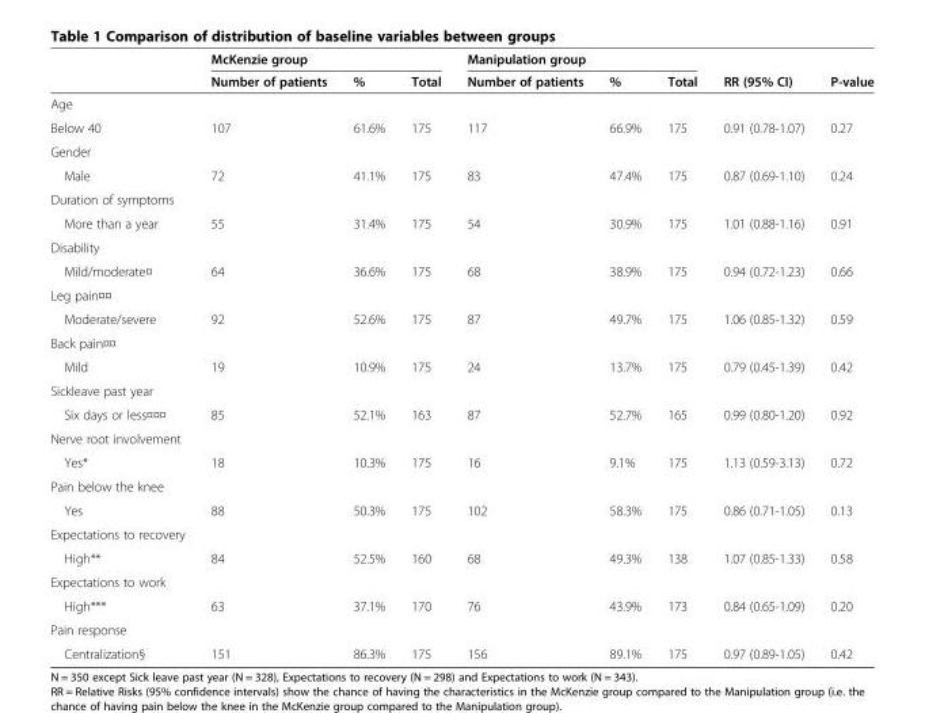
<table><thead><tr><td rowspan="2"></td><td colspan="3">McKenzie group</td><td colspan="3">Manipulation group</td><td rowspan="2">RR (95% CI)</td><td rowspan="2">P-value</td></tr><tr><td>Number of patients</td><td>%</td><td>Total</td><td>Number of patients</td><td>%</td><td>Total</td></tr></thead><tbody><tr><td colspan="9">Age</td></tr><tr><td>Below 40</td><td>107</td><td>61.6%</td><td>175</td><td>117</td><td>66.9%</td><td>175</td><td>0.91 (0.78-1.07)</td><td>0.27</td></tr><tr><td colspan="9">Gender</td></tr><tr><td>Male</td><td>72</td><td>41.1%</td><td>175</td><td>83</td><td>47.4%</td><td>175</td><td>0.87 (0.69-1.10)</td><td>0.24</td></tr><tr><td colspan="9">Duration of symptoms</td></tr><tr><td>More than a year</td><td>55</td><td>31.4%</td><td>175</td><td>54</td><td>30.9%</td><td>175</td><td>1.01 (0.88-1.16)</td><td>0.91</td></tr><tr><td colspan="9">Disability</td></tr><tr><td>Mild/moderate¤</td><td>64</td><td>36.6%</td><td>175</td><td>68</td><td>38.9%</td><td>175</td><td>0.94 (0.72-1.23)</td><td>0.66</td></tr><tr><td colspan="9">Leg pain¤¤</td></tr><tr><td>Moderate/severe</td><td>92</td><td>52.6%</td><td>175</td><td>87</td><td>49.7%</td><td>175</td><td>1.06 (0.85-1.32)</td><td>0.59</td></tr><tr><td colspan="9">Back pain¤¤</td></tr><tr><td>Mild</td><td>19</td><td>10.9%</td><td>175</td><td>24</td><td>13.7%</td><td>175</td><td>0.79 (0.45-1.39)</td><td>0.42</td></tr><tr><td colspan="9">Sickleave past year</td></tr><tr><td>Six days or less¤¤¤</td><td>85</td><td>52.1%</td><td>163</td><td>87</td><td>52.7%</td><td>165</td><td>0.99 (0.80-1.20)</td><td>0.92</td></tr><tr><td colspan="9">Nerve root involvement</td></tr><tr><td>Yes*</td><td>18</td><td>10.3%</td><td>175</td><td>16</td><td>9.1%</td><td>175</td><td>1.13 (0.59-3.13)</td><td>0.72</td></tr><tr><td colspan="9">Pain below the knee</td></tr><tr><td>Yes</td><td>88</td><td>50.3%</td><td>175</td><td>102</td><td>58.3%</td><td>175</td><td>0.86 (0.71-1.05)</td><td>0.13</td></tr><tr><td colspan="9">Expectations to recovery</td></tr><tr><td>High**</td><td>84</td><td>52.5%</td><td>160</td><td>68</td><td>49.3%</td><td>138</td><td>1.07 (0.85-1.33)</td><td>0.58</td></tr><tr><td colspan="9">Expectations to work</td></tr><tr><td>High***</td><td>63</td><td>37.1%</td><td>170</td><td>76</td><td>43.9%</td><td>173</td><td>0.84 (0.65-1.09)</td><td>0.20</td></tr><tr><td colspan="9">Pain response</td></tr><tr><td>Centralization§</td><td>151</td><td>86.3%</td><td>175</td><td>156</td><td>89.1%</td><td>175</td><td>0.97 (0.89-1.05)</td><td>0.42</td></tr></tbody></table>